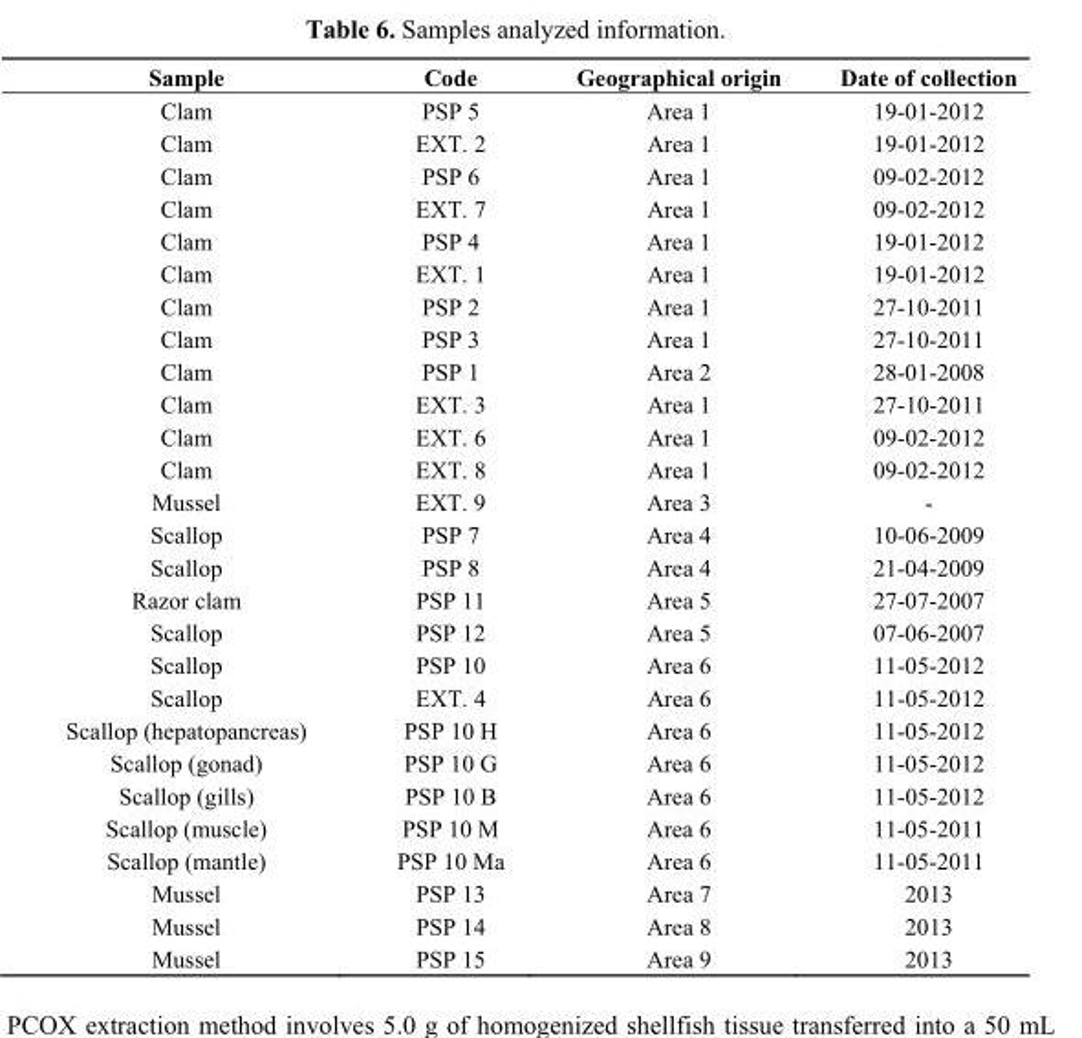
<table><thead><tr><td>Sample</td><td>Code</td><td>Geographical origin</td><td>Date of collection</td></tr></thead><tbody><tr><td>Clam</td><td>PSP 5</td><td>Area 1</td><td>19-01-2012</td></tr><tr><td>Clam</td><td>EXT. 2</td><td>Area 1</td><td>19-01-2012</td></tr><tr><td>Clam</td><td>PSP 6</td><td>Area 1</td><td>09-02-2012</td></tr><tr><td>Clam</td><td>EXT. 7</td><td>Area 1</td><td>09-02-2012</td></tr><tr><td>Clam</td><td>PSP 4</td><td>Area 1</td><td>19-01-2012</td></tr><tr><td>Clam</td><td>EXT. 1</td><td>Area 1</td><td>19-01-2012</td></tr><tr><td>Clam</td><td>PSP 2</td><td>Area 1</td><td>27-10-2011</td></tr><tr><td>Clam</td><td>PSP 3</td><td>Area 1</td><td>27-10-2011</td></tr><tr><td>Clam</td><td>PSP 1</td><td>Area 2</td><td>28-01-2008</td></tr><tr><td>Clam</td><td>EXT. 3</td><td>Area 1</td><td>27-10-2011</td></tr><tr><td>Clam</td><td>EXT. 6</td><td>Area 1</td><td>09-02-2012</td></tr><tr><td>Clam</td><td>EXT. 8</td><td>Area 1</td><td>09-02-2012</td></tr><tr><td>Mussel</td><td>EXT. 9</td><td>Area 3</td><td>-</td></tr><tr><td>Scallop</td><td>PSP 7</td><td>Area 4</td><td>10-06-2009</td></tr><tr><td>Scallop</td><td>PSP 8</td><td>Area 4</td><td>21-04-2009</td></tr><tr><td>Razor clam</td><td>PSP 11</td><td>Area 5</td><td>27-07-2007</td></tr><tr><td>Scallop</td><td>PSP 12</td><td>Area 5</td><td>07-06-2007</td></tr><tr><td>Scallop</td><td>PSP 10</td><td>Area 6</td><td>11-05-2012</td></tr><tr><td>Scallop</td><td>EXT. 4</td><td>Area 6</td><td>11-05-2012</td></tr><tr><td>Scallop (hepatopancreas)</td><td>PSP 10 H</td><td>Area 6</td><td>11-05-2012</td></tr><tr><td>Scallop (gonad)</td><td>PSP 10 G</td><td>Area 6</td><td>11-05-2012</td></tr><tr><td>Scallop (gills)</td><td>PSP 10 B</td><td>Area 6</td><td>11-05-2012</td></tr><tr><td>Scallop (muscle)</td><td>PSP 10 M</td><td>Area 6</td><td>11-05-2011</td></tr><tr><td>Scallop (mantle)</td><td>PSP 10 Ma</td><td>Area 6</td><td>11-05-2011</td></tr><tr><td>Mussel</td><td>PSP 13</td><td>Area 7</td><td>2013</td></tr><tr><td>Mussel</td><td>PSP 14</td><td>Area 8</td><td>2013</td></tr><tr><td>Mussel</td><td>PSP 15</td><td>Area 9</td><td>2013</td></tr></tbody></table>